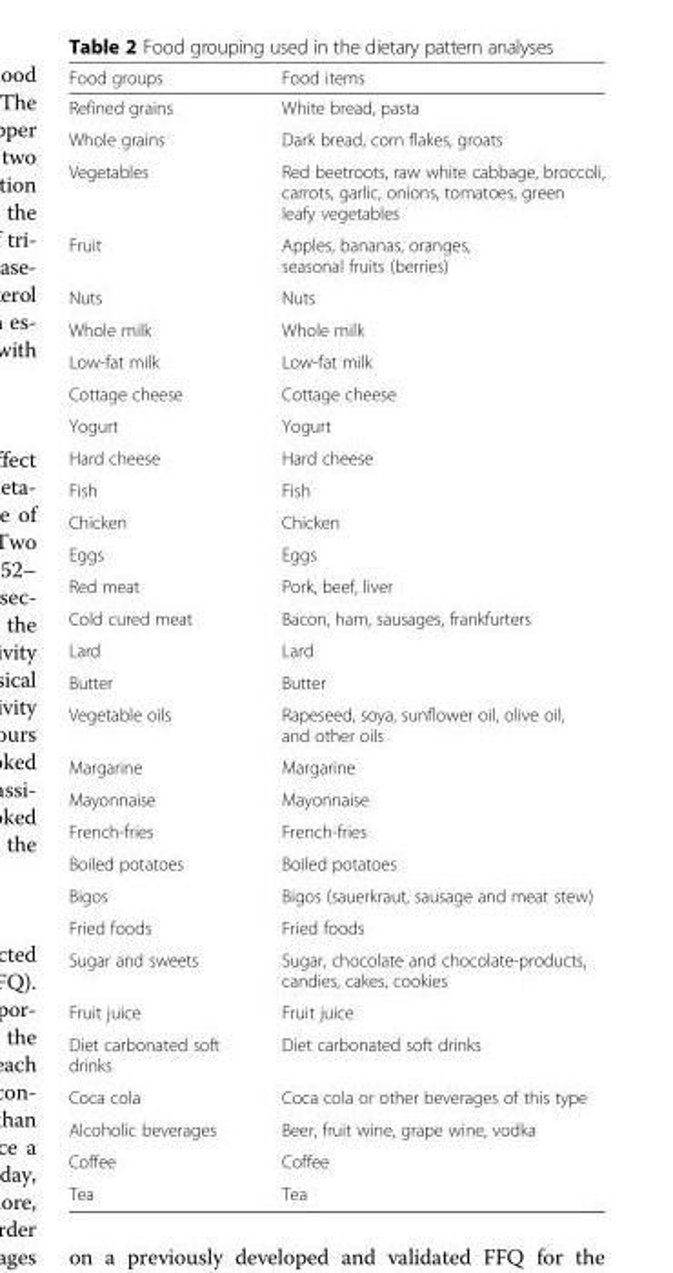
<table><thead><tr><td>Food groups</td><td>Food items</td></tr></thead><tbody><tr><td>Refined grains</td><td>White bread, pasta</td></tr><tr><td>Whole grains</td><td>Dark bread, corn flakes, groats</td></tr><tr><td>Vegetables</td><td>Red beetroots, raw white cabbage, broccoli, carrots, garlic, onions, tomatoes, green leafy vegetables</td></tr><tr><td>Fruit</td><td>Apples, bananas, oranges, seasonal fruits (berries)</td></tr><tr><td>Nuts</td><td>Nuts</td></tr><tr><td>Whole milk</td><td>Whole milk</td></tr><tr><td>Low-fat milk</td><td>Low-fat milk</td></tr><tr><td>Cottage cheese</td><td>Cottage cheese</td></tr><tr><td>Yogurt</td><td>Yogurt</td></tr><tr><td>Hard cheese</td><td>Hard cheese</td></tr><tr><td>Fish</td><td>Fish</td></tr><tr><td>Chicken</td><td>Chicken</td></tr><tr><td>Eggs</td><td>Eggs</td></tr><tr><td>Red meat</td><td>Pork, beef, liver</td></tr><tr><td>Cold cured meat</td><td>Bacon, ham, sausages, frankfurters</td></tr><tr><td>Lard</td><td>Lard</td></tr><tr><td>Butter</td><td>Butter</td></tr><tr><td>Vegetable oils</td><td>Rapeseed, soya, sunflower oil, olive oil, and other oils</td></tr><tr><td>Margarine</td><td>Margarine</td></tr><tr><td>Mayonnaise</td><td>Mayonnaise</td></tr><tr><td>French-fries</td><td>French-fries</td></tr><tr><td>Boiled potatoes</td><td>Boiled potatoes</td></tr><tr><td>Bigos</td><td>Bigos (sauerkraut, sausage and meat stew)</td></tr><tr><td>Fried foods</td><td>Fried foods</td></tr><tr><td>Sugar and sweets</td><td>Sugar, chocolate and chocolate-products, candies, cakes, cookies</td></tr><tr><td>Fruit juice</td><td>Fruit juice</td></tr><tr><td>Diet carbonated soft drinks</td><td>Diet carbonated soft drinks</td></tr><tr><td>Coca cola</td><td>Coca cola or other beverages of this type</td></tr><tr><td>Alcoholic beverages</td><td>Beer, fruit wine, grape wine, vodka</td></tr><tr><td>Coffee</td><td>Coffee</td></tr><tr><td>Tea</td><td>Tea</td></tr></tbody></table>